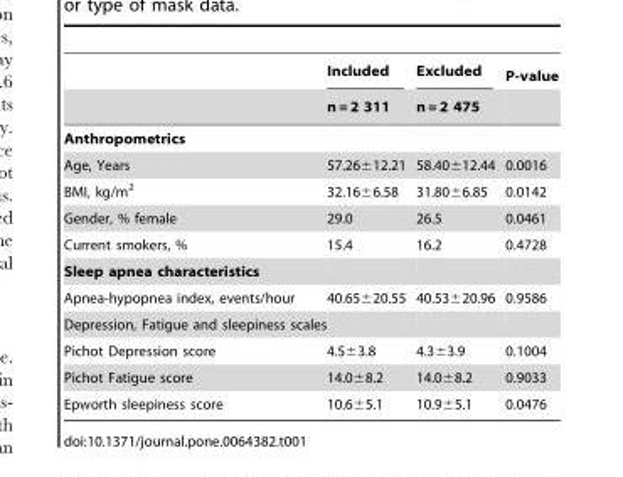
<table><thead><tr><td rowspan="2"></td><td rowspan="2">Included n = 2 311</td><td rowspan="2">Excluded n = 2 475</td><td rowspan="2">P-value</td></tr><tr></tr></thead><tbody><tr><td colspan="4">Anthropometrics</td></tr><tr><td>Age, Years</td><td>57.26±12.21</td><td>58.40±12.44</td><td>0.0016</td></tr><tr><td>BMI, kg/m<sup>2</sup></td><td>32.16±6.58</td><td>31.80±6.85</td><td>0.0142</td></tr><tr><td>Gender, % female</td><td>29.0</td><td>26.5</td><td>0.0461</td></tr><tr><td>Current smokers, %</td><td>15.4</td><td>16.2</td><td>0.4728</td></tr><tr><td colspan="4">Sleep apnea characteristics</td></tr><tr><td>Apnea-hypopnea index, events/hour</td><td>40.65±20.55</td><td>40.53±20.96</td><td>0.9586</td></tr><tr><td colspan="4">Depression, Fatigue and sleepiness scales</td></tr><tr><td>Pichot Depression score</td><td>4.5±3.8</td><td>4.3±3.9</td><td>0.1004</td></tr><tr><td>Pichot Fatigue score</td><td>14.0±8.2</td><td>14.0±8.2</td><td>0.9033</td></tr><tr><td>Epworth sleepiness score</td><td>10.6±5.1</td><td>10.9±5.1</td><td>0.0476</td></tr></tbody></table>